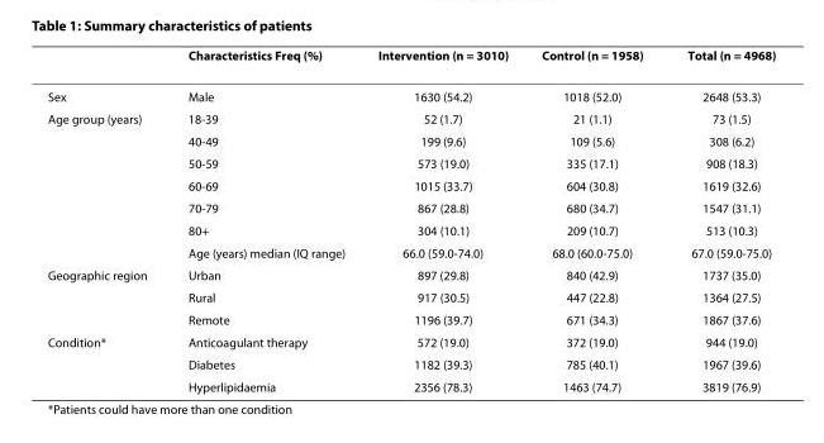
<table><thead><tr><td></td><td>Characteristics Freq (%)</td><td>Intervention (n = 3010)</td><td>Control (n = 1958)</td><td>Total (n = 4968)</td></tr></thead><tbody><tr><td>Sex</td><td>Male</td><td>1630 (54.2)</td><td>1018 (52.0)</td><td>2648 (53.3)</td></tr><tr><td rowspan="7">Age group (years)</td><td>18-39</td><td>52 (1.7)</td><td>21 (1.1)</td><td>73 (1.5)</td></tr><tr><td>40-49</td><td>199 (9.6)</td><td>109 (5.6)</td><td>308 (6.2)</td></tr><tr><td>50-59</td><td>573 (19.0)</td><td>335 (17.1)</td><td>908 (18.3)</td></tr><tr><td>60-69</td><td>1015 (33.7)</td><td>604 (30.8)</td><td>1619 (32.6)</td></tr><tr><td>70-79</td><td>867 (28.8)</td><td>680 (34.7)</td><td>1547 (31.1)</td></tr><tr><td>80+</td><td>304 (10.1)</td><td>209 (10.7)</td><td>513 (10.3)</td></tr><tr><td>Age (years) median (IQ range)</td><td>66.0 (59.0-74.0)</td><td>68.0 (60.0-75.0)</td><td>67.0 (59.0-75.0)</td></tr><tr><td rowspan="3">Geographic region</td><td>Urban</td><td>897 (29.8)</td><td>840 (42.9)</td><td>1737 (35.0)</td></tr><tr><td>Rural</td><td>917 (30.5)</td><td>447 (22.8)</td><td>1364 (27.5)</td></tr><tr><td>Remote</td><td>1196 (39.7)</td><td>671 (34.3)</td><td>1867 (37.6)</td></tr><tr><td rowspan="3">Condition*</td><td>Anticoagulant therapy</td><td>572 (19.0)</td><td>372 (19.0)</td><td>944 (19.0)</td></tr><tr><td>Diabetes</td><td>1182 (39.3)</td><td>785 (40.1)</td><td>1967 (39.6)</td></tr><tr><td>Hyperlipidaemia</td><td>2356 (78.3)</td><td>1463 (74.7)</td><td>3819 (76.9)</td></tr></tbody></table>